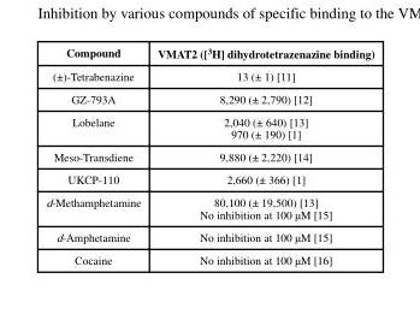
<table><thead><tr><td>Compound</td><td>VMAT2 ([<sup>3</sup>H] dihydrotetrazenazine binding)</td></tr></thead><tbody><tr><td>(±)-Tetrabenazine</td><td>13 (± 1) [11]</td></tr><tr><td>GZ-793A</td><td>8,290 (± 2,790) [12]</td></tr><tr><td>Lobelane</td><td>2,040 (± 640) [13] 970 (± 190) [1]</td></tr><tr><td>Meso-Transdiene</td><td>9,880 (± 2,220) [14]</td></tr><tr><td>UKCP-110</td><td>2,660 (± 366) [1]</td></tr><tr><td>d-Methamphetamine</td><td>80,100 (± 19,500) [13] No inhibition at 100 μM [15]</td></tr><tr><td>d-Amphetamine</td><td>No inhibition at 100 μM [15]</td></tr><tr><td>Cocaine</td><td>No inhibition at 100 μM [16]</td></tr></tbody></table>